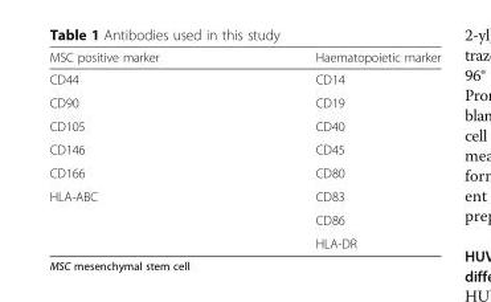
<table><thead><tr><td>MSC positive marker</td><td>Haematopoietic marker</td></tr></thead><tbody><tr><td>CD44</td><td>CD14</td></tr><tr><td>CD90</td><td>CD19</td></tr><tr><td>CD105</td><td>CD40</td></tr><tr><td>CD146</td><td>CD45</td></tr><tr><td>CD166</td><td>CD80</td></tr><tr><td rowspan="3">HLA-ABC</td><td>CD83</td></tr><tr><td>CD86</td></tr><tr><td>HLA-DR</td></tr></tbody></table>